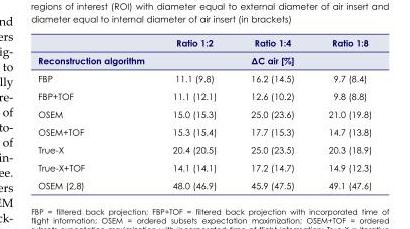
<table><thead><tr><td rowspan="2">Reconstruction algorithm</td><td>Ratio 1:2</td><td>Ratio 1:4</td><td>Ratio 1:8</td></tr><tr><td colspan="3">ΔC air [%]</td></tr></thead><tbody><tr><td>FBP</td><td>11.1 (9.8)</td><td>16.2 (14.5)</td><td>9.7 (8.4)</td></tr><tr><td>FBP+TOF</td><td>11.1 (12.1)</td><td>12.6 (10.2)</td><td>9.8 (8.8)</td></tr><tr><td>OSEM</td><td>15.0 (15.3)</td><td>25.0 (23.6)</td><td>21.0 (19.8)</td></tr><tr><td>OSEM+TOF</td><td>15.3 (15.4)</td><td>17.7 (15.3)</td><td>14.7 (13.8)</td></tr><tr><td>True-X</td><td>20.4 (20.5)</td><td>25.0 (23.5)</td><td>20.3 (18.9)</td></tr><tr><td>True-X+TOF</td><td>14.1 (14.1)</td><td>17.2 (14.7)</td><td>14.9 (12.3)</td></tr><tr><td>OSEM (2,8)</td><td>48.0 (46.9)</td><td>45.9 (47.5)</td><td>49.1 (47.6)</td></tr></tbody></table>